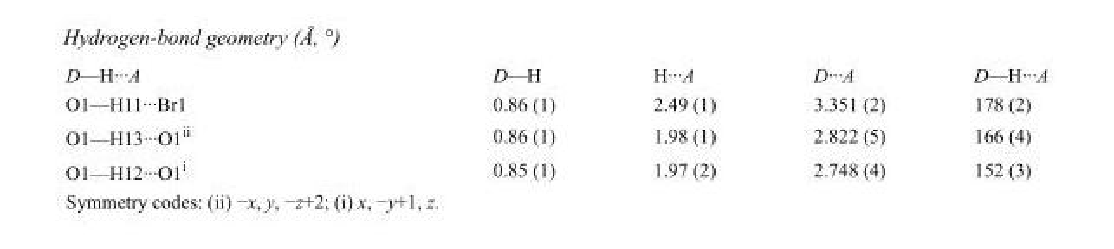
<table><tbody><tr><td>D—H···A</td><td>D—H</td><td>H···A</td><td>D···A</td><td>D—H···A</td></tr><tr><td>O1—H11···Br1</td><td>0.86 (1)</td><td>2.49 (1)</td><td>3.351 (2)</td><td>178 (2)</td></tr><tr><td>O1—H13···O1<sup>ii</sup></td><td>0.86 (1)</td><td>1.98 (1)</td><td>2.822 (5)</td><td>166 (4)</td></tr><tr><td>O1—H12···O1<sup>i</sup></td><td>0.85 (1)</td><td>1.97 (2)</td><td>2.748 (4)</td><td>152 (3)</td></tr></tbody></table>